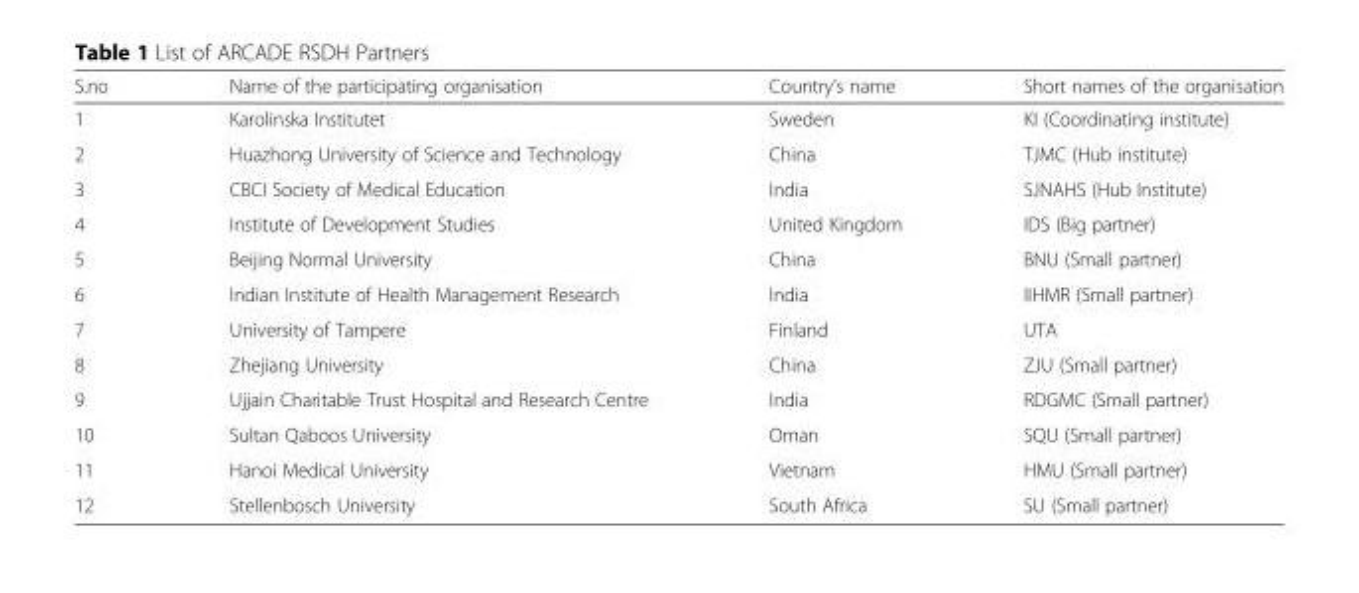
<table><thead><tr><td>S.no</td><td>Name of the participating organisation</td><td>Country’s name</td><td>Short names of the organisation</td></tr></thead><tbody><tr><td>1</td><td>Karolinska Institutet</td><td>Sweden</td><td>KI (Coordinating institute)</td></tr><tr><td>2</td><td>Huazhong University of Science and Technology</td><td>China</td><td>TJMC (Hub institute)</td></tr><tr><td>3</td><td>CBCI Society of Medical Education</td><td>India</td><td>SJNAHS (Hub Institute)</td></tr><tr><td>4</td><td>Institute of Development Studies</td><td>United Kingdom</td><td>IDS (Big partner)</td></tr><tr><td>5</td><td>Beijing Normal University</td><td>China</td><td>BNU (Small partner)</td></tr><tr><td>6</td><td>Indian Institute of Health Management Research</td><td>India</td><td>IIHMR (Small partner)</td></tr><tr><td>7</td><td>University of Tampere</td><td>Finland</td><td>UTA</td></tr><tr><td>8</td><td>Zhejiang University</td><td>China</td><td>ZJU (Small partner)</td></tr><tr><td>9</td><td>Ujjain Charitable Trust Hospital and Research Centre</td><td>India</td><td>RDGMC (Small partner)</td></tr><tr><td>10</td><td>Sultan Qaboos University</td><td>Oman</td><td>SQU (Small partner)</td></tr><tr><td>11</td><td>Hanoi Medical University</td><td>Vietnam</td><td>HMU (Small partner)</td></tr><tr><td>12</td><td>Stellenbosch University</td><td>South Africa</td><td>SU (Small partner)</td></tr></tbody></table>